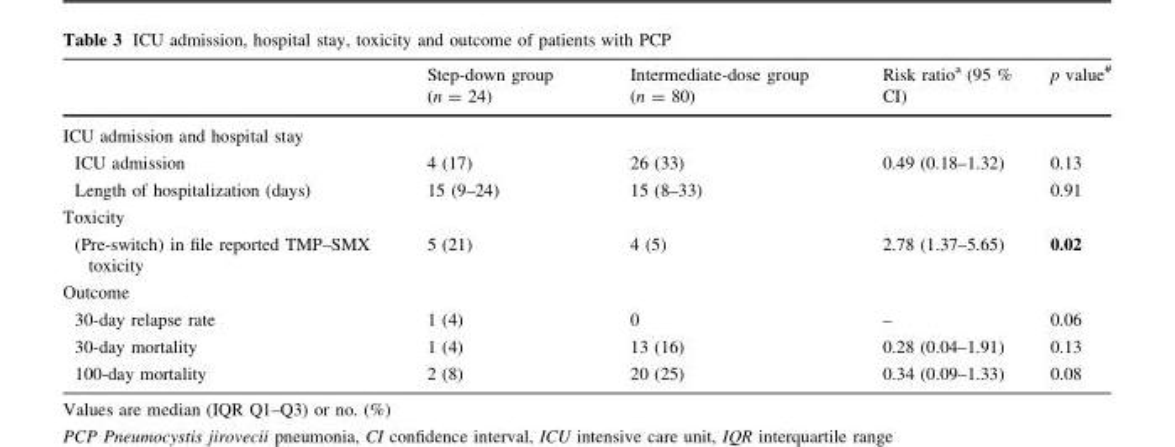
<table><thead><tr><td></td><td>Step-down group (n = 24)</td><td>Intermediate-dose group (n = 80)</td><td>Risk ratio<sup>a</sup> (95 % CI)</td><td>p value<sup>#</sup></td></tr></thead><tbody><tr><td colspan="5">ICU admission and hospital stay</td></tr><tr><td>ICU admission</td><td>4 (17)</td><td>26 (33)</td><td>0.49 (0.18–1.32)</td><td>0.13</td></tr><tr><td>Length of hospitalization (days)</td><td>15 (9–24)</td><td>15 (8–33)</td><td></td><td>0.91</td></tr><tr><td colspan="5">Toxicity</td></tr><tr><td>(Pre-switch) in file reported TMP–SMX toxicity</td><td>5 (21)</td><td>4 (5)</td><td>2.78 (1.37–5.65)</td><td>0.02</td></tr><tr><td colspan="5">Outcome</td></tr><tr><td>30-day relapse rate</td><td>1 (4)</td><td>0</td><td>–</td><td>0.06</td></tr><tr><td>30-day mortality</td><td>1 (4)</td><td>13 (16)</td><td>0.28 (0.04–1.91)</td><td>0.13</td></tr><tr><td>100-day mortality</td><td>2 (8)</td><td>20 (25)</td><td>0.34 (0.09–1.33)</td><td>0.08</td></tr></tbody></table>